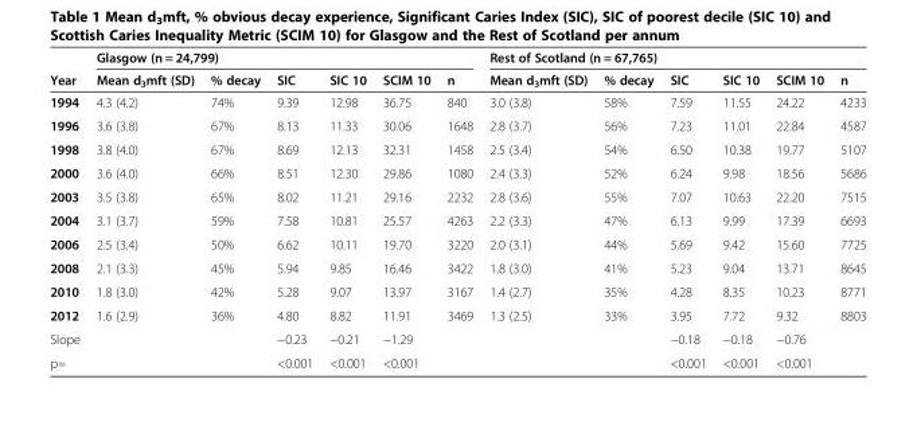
<table><thead><tr><td rowspan="2">Year</td><td colspan="6">Glasgow (n = 24,799)</td><td colspan="6">Rest of Scotland (n = 67,765)</td></tr><tr><td>Mean d<sub>3</sub>mft (SD)</td><td>% decay</td><td>SIC</td><td>SIC 10</td><td>SCIM 10</td><td>n</td><td>Mean d<sub>3</sub>mft (SD)</td><td>% decay</td><td>SIC</td><td>SIC 10</td><td>SCIM 10</td><td>n</td></tr></thead><tbody><tr><td>1994</td><td>4.3 (4.2)</td><td>74%</td><td>9.39</td><td>12.98</td><td>36.75</td><td>840</td><td>3.0 (3.8)</td><td>58%</td><td>7.59</td><td>11.55</td><td>24.22</td><td>4233</td></tr><tr><td>1996</td><td>3.6 (3.8)</td><td>67%</td><td>8.13</td><td>11.33</td><td>30.06</td><td>1648</td><td>2.8 (3.7)</td><td>56%</td><td>7.23</td><td>11.01</td><td>22.84</td><td>4587</td></tr><tr><td>1998</td><td>3.8 (4.0)</td><td>67%</td><td>8.69</td><td>12.13</td><td>32.31</td><td>1458</td><td>2.5 (3.4)</td><td>54%</td><td>6.50</td><td>10.38</td><td>19.77</td><td>5107</td></tr><tr><td>2000</td><td>3.6 (4.0)</td><td>66%</td><td>8.51</td><td>12.30</td><td>29.86</td><td>1080</td><td>2.4 (3.3)</td><td>52%</td><td>6.24</td><td>9.98</td><td>18.56</td><td>5686</td></tr><tr><td>2003</td><td>3.5 (3.8)</td><td>65%</td><td>8.02</td><td>11.21</td><td>29.16</td><td>2232</td><td>2.8 (3.6)</td><td>55%</td><td>7.07</td><td>10.63</td><td>22.20</td><td>7515</td></tr><tr><td>2004</td><td>3.1 (3.7)</td><td>59%</td><td>7.58</td><td>10.81</td><td>25.57</td><td>4263</td><td>2.2 (3.3)</td><td>47%</td><td>6.13</td><td>9.99</td><td>17.39</td><td>6693</td></tr><tr><td>2006</td><td>2.5 (3.4)</td><td>50%</td><td>6.62</td><td>10.11</td><td>19.70</td><td>3220</td><td>2.0 (3.1)</td><td>44%</td><td>5.69</td><td>9.42</td><td>15.60</td><td>7725</td></tr><tr><td>2008</td><td>2.1 (3.3)</td><td>45%</td><td>5.94</td><td>9.85</td><td>16.46</td><td>3422</td><td>1.8 (3.0)</td><td>41%</td><td>5.23</td><td>9.04</td><td>13.71</td><td>8645</td></tr><tr><td>2010</td><td>1.8 (3.0)</td><td>42%</td><td>5.28</td><td>9.07</td><td>13.97</td><td>3167</td><td>1.4 (2.7)</td><td>35%</td><td>4.28</td><td>8.35</td><td>10.23</td><td>8771</td></tr><tr><td>2012</td><td>1.6 (2.9)</td><td>36%</td><td>4.80</td><td>8.82</td><td>11.91</td><td>3469</td><td>1.3 (2.5)</td><td>33%</td><td>3.95</td><td>7.72</td><td>9.32</td><td>8803</td></tr><tr><td>Slope</td><td></td><td></td><td>−0.23</td><td>−0.21</td><td>−1.29</td><td></td><td></td><td></td><td>−0.18</td><td>−0.18</td><td>−0.76</td><td></td></tr><tr><td>p=</td><td></td><td></td><td>&lt;0.001</td><td>&lt;0.001</td><td>&lt;0.001</td><td></td><td></td><td></td><td>&lt;0.001</td><td>&lt;0.001</td><td>&lt;0.001</td><td></td></tr></tbody></table>